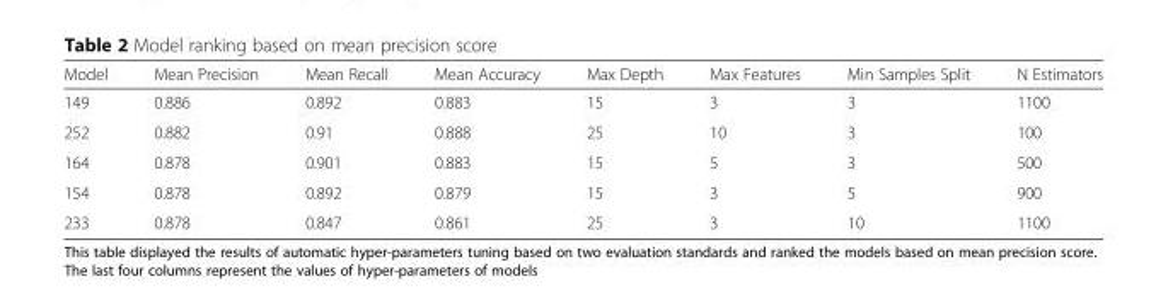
<table><thead><tr><td>Model</td><td>Mean Precision</td><td>Mean Recall</td><td>Mean Accuracy</td><td>Max Depth</td><td>Max Features</td><td>Min Samples Split</td><td>N Estimators</td></tr></thead><tbody><tr><td>149</td><td>0.886</td><td>0.892</td><td>0.883</td><td>15</td><td>3</td><td>3</td><td>1100</td></tr><tr><td>252</td><td>0.882</td><td>0.91</td><td>0.888</td><td>25</td><td>10</td><td>3</td><td>100</td></tr><tr><td>164</td><td>0.878</td><td>0.901</td><td>0.883</td><td>15</td><td>5</td><td>3</td><td>500</td></tr><tr><td>154</td><td>0.878</td><td>0.892</td><td>0.879</td><td>15</td><td>3</td><td>5</td><td>900</td></tr><tr><td>233</td><td>0.878</td><td>0.847</td><td>0.861</td><td>25</td><td>3</td><td>10</td><td>1100</td></tr></tbody></table>